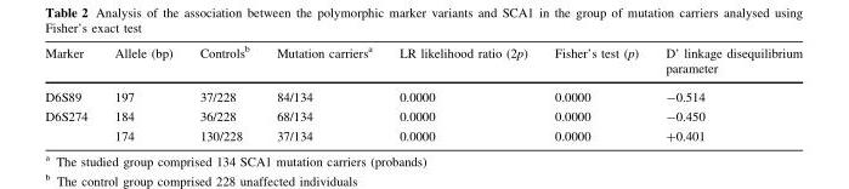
<table><thead><tr><td>Marker</td><td>Allele (bp)</td><td>Controls<sup>b</sup></td><td>Mutation carriers<sup>a</sup></td><td>LR likelihood ratio (2p)</td><td>Fisher’s test (p)</td><td>D’ linkage disequilibrium parameter</td></tr></thead><tbody><tr><td>D6S89</td><td>197</td><td>37/228</td><td>84/134</td><td>0.0000</td><td>0.0000</td><td>-0.514</td></tr><tr><td rowspan="2">D6S274</td><td>184</td><td>36/228</td><td>68/134</td><td>0.0000</td><td>0.0000</td><td>-0.450</td></tr><tr><td>174</td><td>130/228</td><td>37/134</td><td>0.0000</td><td>0.0000</td><td>+0.401</td></tr></tbody></table>